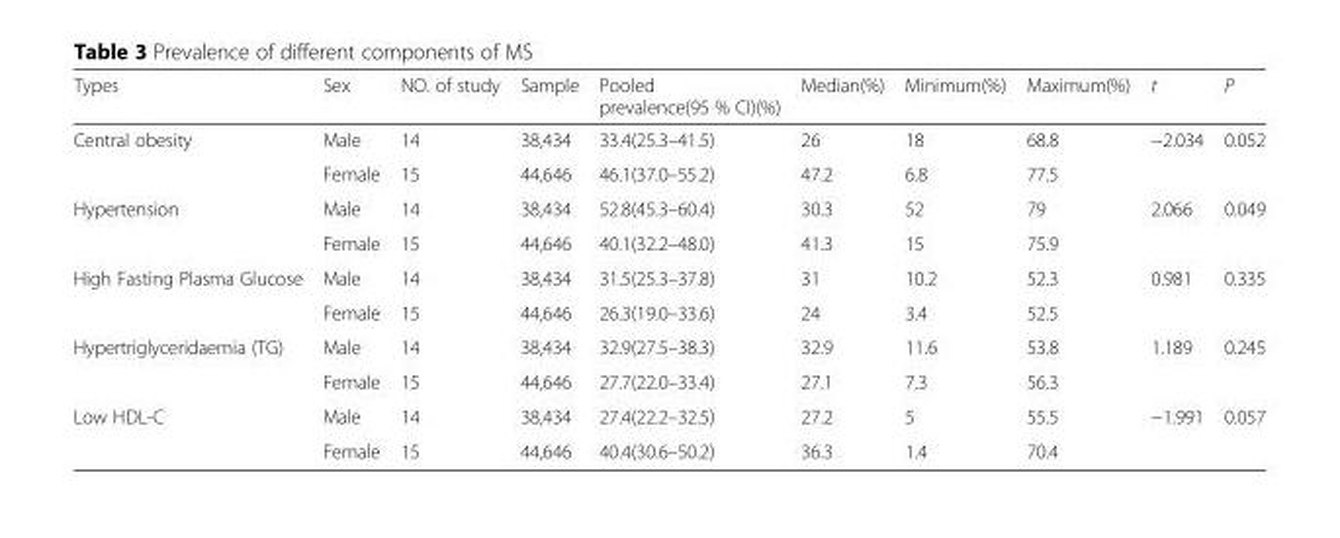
<table><thead><tr><td>Types</td><td>Sex</td><td>NO. of study</td><td>Sample</td><td>Pooled prevalence(95 % CI)(%)</td><td>Median(%)</td><td>Minimum(%)</td><td>Maximum(%)</td><td>t</td><td>P</td></tr></thead><tbody><tr><td rowspan="2">Central obesity</td><td>Male</td><td>14</td><td>38,434</td><td>33.4(25.3–41.5)</td><td>26</td><td>18</td><td>68.8</td><td>−2.034</td><td>0.052</td></tr><tr><td>Female</td><td>15</td><td>44,646</td><td>46.1(37.0–55.2)</td><td>47.2</td><td>6.8</td><td>77.5</td><td></td><td></td></tr><tr><td rowspan="2">Hypertension</td><td>Male</td><td>14</td><td>38,434</td><td>52.8(45.3–60.4)</td><td>30.3</td><td>52</td><td>79</td><td>2.066</td><td>0.049</td></tr><tr><td>Female</td><td>15</td><td>44,646</td><td>40.1(32.2–48.0)</td><td>41.3</td><td>15</td><td>75.9</td><td></td><td></td></tr><tr><td rowspan="2">High Fasting Plasma Glucose</td><td>Male</td><td>14</td><td>38,434</td><td>31.5(25.3–37.8)</td><td>31</td><td>10.2</td><td>52.3</td><td>0.981</td><td>0.335</td></tr><tr><td>Female</td><td>15</td><td>44,646</td><td>26.3(19.0–33.6)</td><td>24</td><td>3.4</td><td>52.5</td><td></td><td></td></tr><tr><td rowspan="2">Hypertriglyceridaemia (TG)</td><td>Male</td><td>14</td><td>38,434</td><td>32.9(27.5–38.3)</td><td>32.9</td><td>11.6</td><td>53.8</td><td>1.189</td><td>0.245</td></tr><tr><td>Female</td><td>15</td><td>44,646</td><td>27.7(22.0–33.4)</td><td>27.1</td><td>7.3</td><td>56.3</td><td></td><td></td></tr><tr><td rowspan="2">Low HDL-C</td><td>Male</td><td>14</td><td>38,434</td><td>27.4(22.2–32.5)</td><td>27.2</td><td>5</td><td>55.5</td><td>−1.991</td><td>0.057</td></tr><tr><td>Female</td><td>15</td><td>44,646</td><td>40.4(30.6–50.2)</td><td>36.3</td><td>1.4</td><td>70.4</td><td></td><td></td></tr></tbody></table>